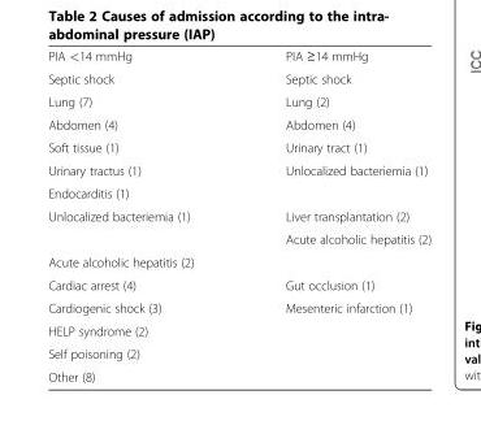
<table><tbody><tr><td>PIA &lt;14 mmHg</td><td>PIA ≥14 mmHg</td></tr><tr><td>Septic shock</td><td>Septic shock</td></tr><tr><td>Lung (7)</td><td>Lung (2)</td></tr><tr><td>Abdomen (4)</td><td>Abdomen (4)</td></tr><tr><td>Soft tissue (1)</td><td>Urinary tract (1)</td></tr><tr><td>Urinary tractus (1)</td><td>Unlocalized bacteriemia (1)</td></tr><tr><td colspan="2">Endocarditis (1)</td></tr><tr><td rowspan="2">Unlocalized bacteriemia (1)</td><td>Liver transplantation (2)</td></tr><tr><td>Acute alcoholic hepatitis (2)</td></tr><tr><td colspan="2">Acute alcoholic hepatitis (2)</td></tr><tr><td>Cardiac arrest (4)</td><td>Gut occlusion (1)</td></tr><tr><td>Cardiogenic shock (3)</td><td>Mesenteric infarction (1)</td></tr><tr><td colspan="2">HELP syndrome (2)</td></tr><tr><td colspan="2">Self poisoning (2)</td></tr><tr><td>Other (8)</td><td></td></tr></tbody></table>